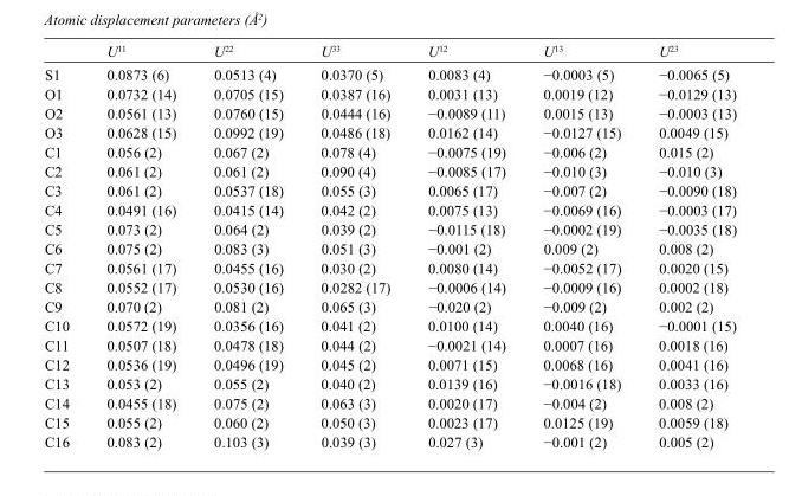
<table><thead><tr><td></td><td>U<sup>11</sup></td><td>U<sup>22</sup></td><td>U<sup>33</sup></td><td>U<sup>12</sup></td><td>U<sup>13</sup></td><td>U<sup>23</sup></td></tr></thead><tbody><tr><td>S1</td><td>0.0873 (6)</td><td>0.0513 (4)</td><td>0.0370 (5)</td><td>0.0083 (4)</td><td>−0.0003 (5)</td><td>−0.0065 (5)</td></tr><tr><td>O1</td><td>0.0732 (14)</td><td>0.0705 (15)</td><td>0.0387 (16)</td><td>0.0031 (13)</td><td>0.0019 (12)</td><td>−0.0129 (13)</td></tr><tr><td>O2</td><td>0.0561 (13)</td><td>0.0760 (15)</td><td>0.0444 (16)</td><td>−0.0089 (11)</td><td>0.0015 (13)</td><td>−0.0003 (13)</td></tr><tr><td>O3</td><td>0.0628 (15)</td><td>0.0992 (19)</td><td>0.0486 (18)</td><td>0.0162 (14)</td><td>−0.0127 (15)</td><td>0.0049 (15)</td></tr><tr><td>C1</td><td>0.056 (2)</td><td>0.067 (2)</td><td>0.078 (4)</td><td>−0.0075 (19)</td><td>−0.006 (2)</td><td>0.015 (2)</td></tr><tr><td>C2</td><td>0.061 (2)</td><td>0.061 (2)</td><td>0.090 (4)</td><td>−0.0085 (17)</td><td>−0.010 (3)</td><td>−0.010 (3)</td></tr><tr><td>C3</td><td>0.061 (2)</td><td>0.0537 (18)</td><td>0.055 (3)</td><td>0.0065 (17)</td><td>−0.007 (2)</td><td>−0.0090 (18)</td></tr><tr><td>C4</td><td>0.0491 (16)</td><td>0.0415 (14)</td><td>0.042 (2)</td><td>0.0075 (13)</td><td>−0.0069 (16)</td><td>−0.0003 (17)</td></tr><tr><td>C5</td><td>0.073 (2)</td><td>0.064 (2)</td><td>0.039 (2)</td><td>−0.0115 (18)</td><td>−0.0002 (19)</td><td>−0.0035 (18)</td></tr><tr><td>C6</td><td>0.075 (2)</td><td>0.083 (3)</td><td>0.051 (3)</td><td>−0.001 (2)</td><td>0.009 (2)</td><td>0.008 (2)</td></tr><tr><td>C7</td><td>0.0561 (17)</td><td>0.0455 (16)</td><td>0.030 (2)</td><td>0.0080 (14)</td><td>−0.0052 (17)</td><td>0.0020 (15)</td></tr><tr><td>C8</td><td>0.0552 (17)</td><td>0.0530 (16)</td><td>0.0282 (17)</td><td>−0.0006 (14)</td><td>−0.0009 (16)</td><td>0.0002 (18)</td></tr><tr><td>C9</td><td>0.070 (2)</td><td>0.081 (2)</td><td>0.065 (3)</td><td>−0.020 (2)</td><td>−0.009 (2)</td><td>0.002 (2)</td></tr><tr><td>C10</td><td>0.0572 (19)</td><td>0.0356 (16)</td><td>0.041 (2)</td><td>0.0100 (14)</td><td>0.0040 (16)</td><td>−0.0001 (15)</td></tr><tr><td>C11</td><td>0.0507 (18)</td><td>0.0478 (18)</td><td>0.044 (2)</td><td>−0.0021 (14)</td><td>0.0007 (16)</td><td>0.0018 (16)</td></tr><tr><td>C12</td><td>0.0536 (19)</td><td>0.0496 (19)</td><td>0.045 (2)</td><td>0.0071 (15)</td><td>0.0068 (16)</td><td>0.0041 (16)</td></tr><tr><td>C13</td><td>0.053 (2)</td><td>0.055 (2)</td><td>0.040 (2)</td><td>0.0139 (16)</td><td>−0.0016 (18)</td><td>0.0033 (16)</td></tr><tr><td>C14</td><td>0.0455 (18)</td><td>0.075 (2)</td><td>0.063 (3)</td><td>0.0020 (17)</td><td>−0.004 (2)</td><td>0.008 (2)</td></tr><tr><td>C15</td><td>0.055 (2)</td><td>0.060 (2)</td><td>0.050 (3)</td><td>0.0023 (17)</td><td>0.0125 (19)</td><td>0.0059 (18)</td></tr><tr><td>C16</td><td>0.083 (2)</td><td>0.103 (3)</td><td>0.039 (3)</td><td>0.027 (3)</td><td>−0.001 (2)</td><td>0.005 (2)</td></tr></tbody></table>